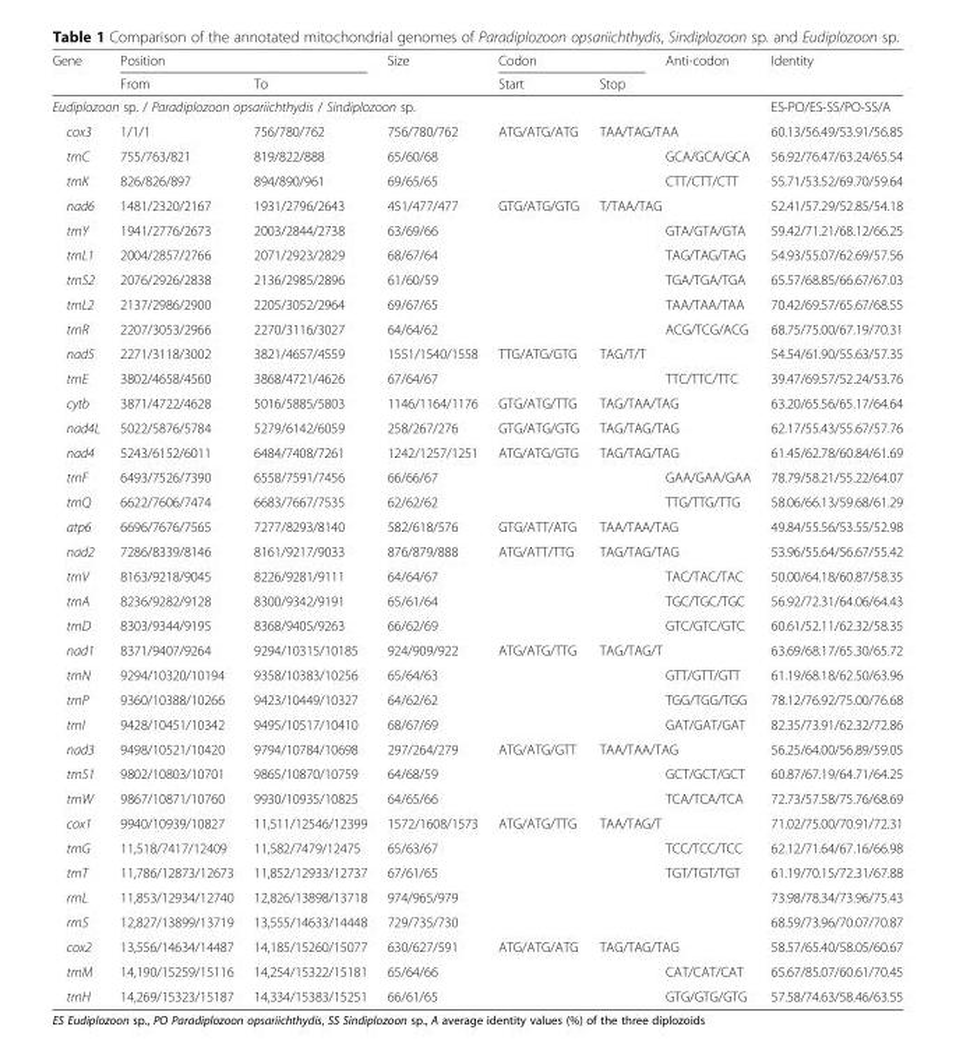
<table><thead><tr><td rowspan="2">Gene</td><td colspan="2">Position</td><td rowspan="2">Size</td><td colspan="2">Codon</td><td rowspan="2">Anti-codon</td><td rowspan="2">Identity</td></tr><tr><td>From</td><td>To</td><td>Start</td><td>Stop</td></tr></thead><tbody><tr><td colspan="7">Eudiplozoon sp. / Paradiplozoon opsariichthydis / Sindiplozoon sp.</td><td>ES-PO/ES-SS/PO-SS/A</td></tr><tr><td>cox3</td><td>1/1/1</td><td>756/780/762</td><td>756/780/762</td><td>ATG/ATG/ATG</td><td colspan="2">TAA/TAG/TAA</td><td>60.13/56.49/53.91/56.85</td></tr><tr><td>trnC</td><td>755/763/821</td><td>819/822/888</td><td>65/60/68</td><td></td><td></td><td>GCA/GCA/GCA</td><td>56.92/76.47/63.24/65.54</td></tr><tr><td>trnK</td><td>826/826/897</td><td>894/890/961</td><td>69/65/65</td><td></td><td></td><td>CTT/CTT/CTT</td><td>55.71/53.52/69.70/59.64</td></tr><tr><td>nad6</td><td>1481/2320/2167</td><td>1931/2796/2643</td><td>451/477/477</td><td>GTG/ATG/GTG</td><td colspan="2">T/TAA/TAG</td><td>52.41/57.29/52.85/54.18</td></tr><tr><td>trnY</td><td>1941/2776/2673</td><td>2003/2844/2738</td><td>63/69/66</td><td></td><td></td><td>GTA/GTA/GTA</td><td>59.42/71.21/68.12/66.25</td></tr><tr><td>trnL1</td><td>2004/2857/2766</td><td>2071/2923/2829</td><td>68/67/64</td><td></td><td></td><td>TAG/TAG/TAG</td><td>54.93/55.07/62.69/57.56</td></tr><tr><td>trnS2</td><td>2076/2926/2838</td><td>2136/2985/2896</td><td>61/60/59</td><td></td><td></td><td>TGA/TGA/TGA</td><td>65.57/68.85/66.67/67.03</td></tr><tr><td>trnL2</td><td>2137/2986/2900</td><td>2205/3052/2964</td><td>69/67/65</td><td></td><td></td><td>TAA/TAA/TAA</td><td>70.42/69.57/65.67/68.55</td></tr><tr><td>trnR</td><td>2207/3053/2966</td><td>2270/3116/3027</td><td>64/64/62</td><td></td><td></td><td>ACG/TCG/ACG</td><td>68.75/75.00/67.19/70.31</td></tr><tr><td>nad5</td><td>2271/3118/3002</td><td>3821/4657/4559</td><td>1551/1540/1558</td><td>TTG/ATG/GTG</td><td>TAG/T/T</td><td></td><td>54.54/61.90/55.63/57.35</td></tr><tr><td>trnE</td><td>3802/4658/4560</td><td>3868/4721/4626</td><td>67/64/67</td><td></td><td></td><td>TTC/TTC/TTC</td><td>39.47/69.57/52.24/53.76</td></tr><tr><td>cytb</td><td>3871/4722/4628</td><td>5016/5885/5803</td><td>1146/1164/1176</td><td>GTG/ATG/TTG</td><td colspan="2">TAG/TAA/TAG</td><td>63.20/65.56/65.17/64.64</td></tr><tr><td>nad4L</td><td>5022/5876/5784</td><td>5279/6142/6059</td><td>258/267/276</td><td>GTG/ATG/GTG</td><td colspan="2">TAG/TAG/TAG</td><td>62.17/55.43/55.67/57.76</td></tr><tr><td>nad4</td><td>5243/6152/6011</td><td>6484/7408/7261</td><td>1242/1257/1251</td><td>ATG/ATG/GTG</td><td colspan="2">TAG/TAG/TAG</td><td>61.45/62.78/60.84/61.69</td></tr><tr><td>trnF</td><td>6493/7526/7390</td><td>6558/7591/7456</td><td>66/66/67</td><td></td><td></td><td>GAA/GAA/GAA</td><td>78.79/58.21/55.22/64.07</td></tr><tr><td>trnQ</td><td>6622/7606/7474</td><td>6683/7667/7535</td><td>62/62/62</td><td></td><td></td><td>TTG/TTG/TTG</td><td>58.06/66.13/59.68/61.29</td></tr><tr><td>atp6</td><td>6696/7676/7565</td><td>7277/8293/8140</td><td>582/618/576</td><td>GTG/ATT/ATG</td><td colspan="2">TAA/TAA/TAG</td><td>49.84/55.56/53.55/52.98</td></tr><tr><td>nad2</td><td>7286/8339/8146</td><td>8161/9217/9033</td><td>876/879/888</td><td>ATG/ATT/TTG</td><td colspan="2">TAG/TAG/TAG</td><td>53.96/55.64/56.67/55.42</td></tr><tr><td>trnV</td><td>8163/9218/9045</td><td>8226/9281/9111</td><td>64/64/67</td><td></td><td></td><td>TAC/TAC/TAC</td><td>50.00/64.18/60.87/58.35</td></tr><tr><td>trnA</td><td>8236/9282/9128</td><td>8300/9342/9191</td><td>65/61/64</td><td></td><td></td><td>TGC/TGC/TGC</td><td>56.92/72.31/64.06/64.43</td></tr><tr><td>trnD</td><td>8303/9344/9195</td><td>8368/9405/9263</td><td>66/62/69</td><td></td><td></td><td>GTC/GTC/GTC</td><td>60.61/52.11/62.32/58.35</td></tr><tr><td>nad1</td><td>8371/9407/9264</td><td>9294/10315/10185</td><td>924/909/922</td><td>ATG/ATG/TTG</td><td colspan="2">TAG/TAG/T</td><td>63.69/68.17/65.30/65.72</td></tr><tr><td>trnN</td><td>9294/10320/10194</td><td>9358/10383/10256</td><td>65/64/63</td><td></td><td></td><td>GTT/GTT/GTT</td><td>61.19/68.18/62.50/63.96</td></tr><tr><td>trnP</td><td>9360/10388/10266</td><td>9423/10449/10327</td><td>64/62/62</td><td></td><td></td><td>TGG/TGG/TGG</td><td>78.12/76.92/75.00/76.68</td></tr><tr><td>trnI</td><td>9428/10451/10342</td><td>9495/10517/10410</td><td>68/67/69</td><td></td><td></td><td>GAT/GAT/GAT</td><td>82.35/73.91/62.32/72.86</td></tr><tr><td>nad3</td><td>9498/10521/10420</td><td>9794/10784/10698</td><td>297/264/279</td><td>ATG/ATG/GTT</td><td colspan="2">TAA/TAA/TAG</td><td>56.25/64.00/56.89/59.05</td></tr><tr><td>trnS1</td><td>9802/10803/10701</td><td>9865/10870/10759</td><td>64/68/59</td><td></td><td></td><td>GCT/GCT/GCT</td><td>60.87/67.19/64.71/64.25</td></tr><tr><td>trnW</td><td>9867/10871/10760</td><td>9930/10935/10825</td><td>64/65/66</td><td></td><td></td><td>TCA/TCA/TCA</td><td>72.73/57.58/75.76/68.69</td></tr><tr><td>cox1</td><td>9940/10939/10827</td><td>11,511/12546/12399</td><td>1572/1608/1573</td><td>ATG/ATG/TTG</td><td colspan="2">TAA/TAG/T</td><td>71.02/75.00/70.91/72.31</td></tr><tr><td>trnG</td><td>11,518/7417/12409</td><td>11,582/7479/12475</td><td>65/63/67</td><td></td><td></td><td>TCC/TCC/TCC</td><td>62.12/71.64/67.16/66.98</td></tr><tr><td>trnT</td><td>11,786/12873/12673</td><td>11,852/12933/12737</td><td>67/61/65</td><td></td><td></td><td>TGT/TGT/TGT</td><td>61.19/70.15/72.31/67.88</td></tr><tr><td>rrnL</td><td>11,853/12934/12740</td><td>12,826/13898/13718</td><td>974/965/979</td><td></td><td></td><td></td><td>73.98/78.34/73.96/75.43</td></tr><tr><td>rrnS</td><td>12,827/13899/13719</td><td>13,555/14633/14448</td><td>729/735/730</td><td></td><td></td><td></td><td>68.59/73.96/70.07/70.87</td></tr><tr><td>cox2</td><td>13,556/14634/14487</td><td>14,185/15260/15077</td><td>630/627/591</td><td>ATG/ATG/ATG</td><td colspan="2">TAG/TAG/TAG</td><td>58.57/65.40/58.05/60.67</td></tr><tr><td>trnM</td><td>14,190/15259/15116</td><td>14,254/15322/15181</td><td>65/64/66</td><td></td><td></td><td>CAT/CAT/CAT</td><td>65.67/85.07/60.61/70.45</td></tr><tr><td>trnH</td><td>14,269/15323/15187</td><td>14,334/15383/15251</td><td>66/61/65</td><td></td><td></td><td>GTG/GTG/GTG</td><td>57.58/74.63/58.46/63.55</td></tr></tbody></table>